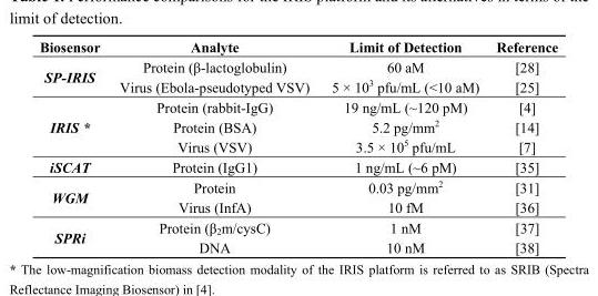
<table><thead><tr><td>Biosensor</td><td>Analyte</td><td>Limit of Detection</td><td>Reference</td></tr></thead><tbody><tr><td rowspan="2">SP-IRIS</td><td>Protein (β-lactoglobulin)</td><td>60 aM</td><td>[28]</td></tr><tr><td>Virus (Ebola-pseudotyped VSV)</td><td>5 × 10<sup>3</sup> pfu/mL (&lt;10 aM)</td><td>[25]</td></tr><tr><td rowspan="3">IRIS *</td><td>Protein (rabbit-IgG)</td><td>19 ng/mL (~120 pM)</td><td>[4]</td></tr><tr><td>Protein (BSA)</td><td>5.2 pg/mm<sup>2</sup></td><td>[14]</td></tr><tr><td>Virus (VSV)</td><td>3.5 × 10<sup>5</sup> pfu/mL</td><td>[7]</td></tr><tr><td>iSCAT</td><td>Protein (IgG1)</td><td>1 ng/mL (~6 pM)</td><td>[35]</td></tr><tr><td rowspan="2">WGM</td><td>Protein</td><td>0.03 pg/mm<sup>2</sup></td><td>[31]</td></tr><tr><td>Virus (InfA)</td><td>10 fM</td><td>[36]</td></tr><tr><td rowspan="2">SPRi</td><td>Protein (β<sub>2</sub>m/cysC)</td><td>1 nM</td><td>[37]</td></tr><tr><td>DNA</td><td>10 nM</td><td>[38]</td></tr></tbody></table>